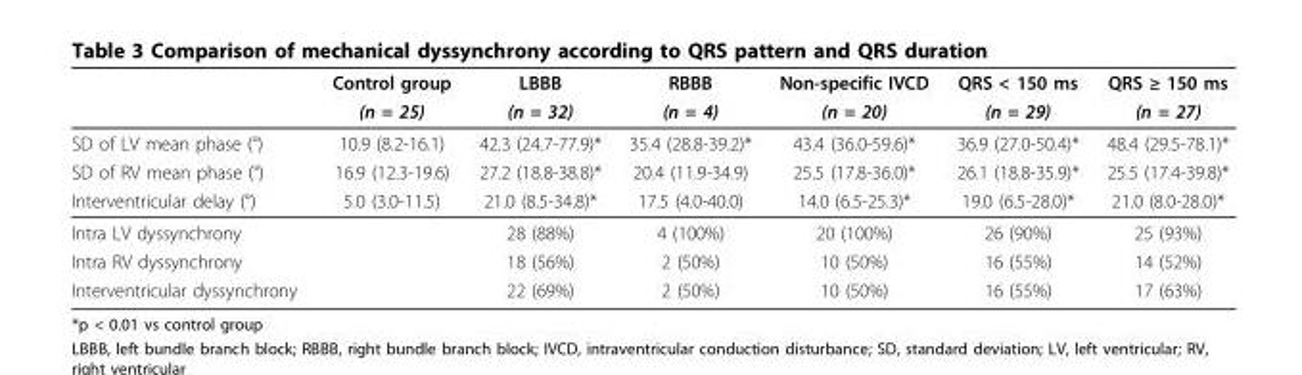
<table><thead><tr><td rowspan="2"></td><td rowspan="2">Control group (n = 25)</td><td rowspan="2">LBBB (n = 32)</td><td rowspan="2">RBBB (n = 4)</td><td rowspan="2">Non-specific IVCD (n = 20)</td><td rowspan="2">QRS &lt; 150 ms (n = 29)</td><td rowspan="2">QRS ≥ 150 ms (n = 27)</td></tr><tr></tr></thead><tbody><tr><td>SD of LV mean phase (°)</td><td>10.9 (8.2-16.1)</td><td>42.3 (24.7-77.9)*</td><td>35.4 (28.8-39.2)*</td><td>43.4 (36.0-59.6)*</td><td>36.9 (27.0-50.4)*</td><td>48.4 (29.5-78.1)*</td></tr><tr><td>SD of RV mean phase (°)</td><td>16.9 (12.3-19.6)</td><td>27.2 (18.8-38.8)*</td><td>20.4 (11.9-34.9)</td><td>25.5 (17.8-36.0)*</td><td>26.1 (18.8-35.9)*</td><td>25.5 (17.4-39.8)*</td></tr><tr><td>Interventricular delay (°)</td><td>5.0 (3.0-11.5)</td><td>21.0 (8.5-34.8)*</td><td>17.5 (4.0-40.0)</td><td>14.0 (6.5-25.3)*</td><td>19.0 (6.5-28.0)*</td><td>21.0 (8.0-28.0)*</td></tr><tr><td>Intra LV dyssynchrony</td><td></td><td>28 (88%)</td><td>4 (100%)</td><td>20 (100%)</td><td>26 (90%)</td><td>25 (93%)</td></tr><tr><td>Intra RV dyssynchrony</td><td></td><td>18 (56%)</td><td>2 (50%)</td><td>10 (50%)</td><td>16 (55%)</td><td>14 (52%)</td></tr><tr><td>Interventricular dyssynchrony</td><td></td><td>22 (69%)</td><td>2 (50%)</td><td>10 (50%)</td><td>16 (55%)</td><td>17 (63%)</td></tr></tbody></table>